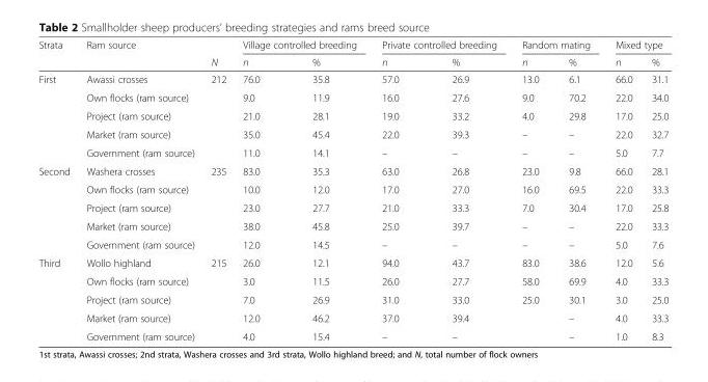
<table><thead><tr><td rowspan="2">Strata</td><td rowspan="2">Ram source</td><td rowspan="2">N</td><td colspan="2">Village controlled breeding</td><td colspan="2">Private controlled breeding</td><td colspan="2">Random mating</td><td colspan="2">Mixed type</td></tr><tr><td>n</td><td>%</td><td>n</td><td>%</td><td>n</td><td>%</td><td>n</td><td>%</td></tr></thead><tbody><tr><td rowspan="5">First</td><td>Awassi crosses</td><td>212</td><td>76.0</td><td>35.8</td><td>57.0</td><td>26.9</td><td>13.0</td><td>6.1</td><td>66.0</td><td>31.1</td></tr><tr><td>Own flocks (ram source)</td><td></td><td>9.0</td><td>11.9</td><td>16.0</td><td>27.6</td><td>9.0</td><td>70.2</td><td>22.0</td><td>34.0</td></tr><tr><td>Project (ram source)</td><td></td><td>21.0</td><td>28.1</td><td>19.0</td><td>33.2</td><td>4.0</td><td>29.8</td><td>17.0</td><td>25.0</td></tr><tr><td>Market (ram source)</td><td></td><td>35.0</td><td>45.4</td><td>22.0</td><td>39.3</td><td>–</td><td>–</td><td>22.0</td><td>32.7</td></tr><tr><td>Government (ram source)</td><td></td><td>11.0</td><td>14.1</td><td>–</td><td>–</td><td>–</td><td>–</td><td>5.0</td><td>7.7</td></tr><tr><td rowspan="5">Second</td><td>Washera crosses</td><td>235</td><td>83.0</td><td>35.3</td><td>63.0</td><td>26.8</td><td>23.0</td><td>9.8</td><td>66.0</td><td>28.1</td></tr><tr><td>Own flocks (ram source)</td><td></td><td>10.0</td><td>12.0</td><td>17.0</td><td>27.0</td><td>16.0</td><td>69.5</td><td>22.0</td><td>33.3</td></tr><tr><td>Project (ram source)</td><td></td><td>23.0</td><td>27.7</td><td>21.0</td><td>33.3</td><td>7.0</td><td>30.4</td><td>17.0</td><td>25.8</td></tr><tr><td>Market (ram source)</td><td></td><td>38.0</td><td>45.8</td><td>25.0</td><td>39.7</td><td>–</td><td>–</td><td>22.0</td><td>33.3</td></tr><tr><td>Government (ram source)</td><td></td><td>12.0</td><td>14.5</td><td>–</td><td>–</td><td>–</td><td>–</td><td>5.0</td><td>7.6</td></tr><tr><td rowspan="5">Third</td><td>Wollo highland</td><td>215</td><td>26.0</td><td>12.1</td><td>94.0</td><td>43.7</td><td>83.0</td><td>38.6</td><td>12.0</td><td>5.6</td></tr><tr><td>Own flocks (ram source)</td><td></td><td>3.0</td><td>11.5</td><td>26.0</td><td>27.7</td><td>58.0</td><td>69.9</td><td>4.0</td><td>33.3</td></tr><tr><td>Project (ram source)</td><td></td><td>7.0</td><td>26.9</td><td>31.0</td><td>33.0</td><td>25.0</td><td>30.1</td><td>3.0</td><td>25.0</td></tr><tr><td>Market (ram source)</td><td></td><td>12.0</td><td>46.2</td><td>37.0</td><td>39.4</td><td></td><td>–</td><td>4.0</td><td>33.3</td></tr><tr><td>Government (ram source)</td><td></td><td>4.0</td><td>15.4</td><td>–</td><td>–</td><td></td><td>–</td><td>1.0</td><td>8.3</td></tr></tbody></table>